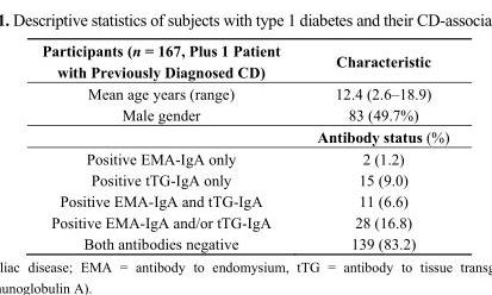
<table><thead><tr><td>Participants (n = 167, Plus 1 Patient with Previously Diagnosed CD)</td><td>Characteristic</td></tr></thead><tbody><tr><td>Mean age years (range)</td><td>12.4 (2.6–18.9)</td></tr><tr><td rowspan="2">Male gender</td><td>83 (49.7%)</td></tr><tr><td>Antibody status (%)</td></tr><tr><td>Positive EMA-IgA only</td><td>2 (1.2)</td></tr><tr><td>Positive tTG-IgA only</td><td>15 (9.0)</td></tr><tr><td>Positive EMA-IgA and tTG-IgA</td><td>11 (6.6)</td></tr><tr><td>Positive EMA-IgA and/or tTG-IgA</td><td>28 (16.8)</td></tr><tr><td>Both antibodies negative</td><td>139 (83.2)</td></tr></tbody></table>